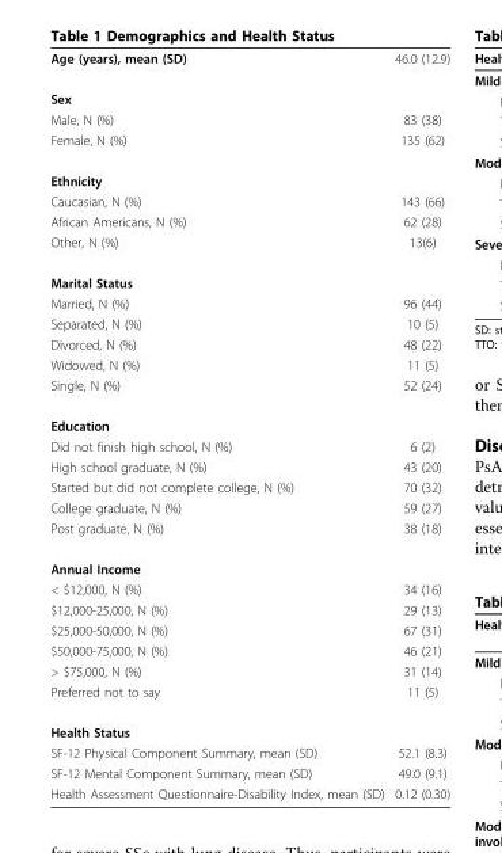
<table><tbody><tr><td>Age (years), mean (SD)</td><td>46.0 (12.9)</td></tr><tr><td colspan="2">Sex</td></tr><tr><td>Male, N (%)</td><td>83 (38)</td></tr><tr><td>Female, N (%)</td><td>135 (62)</td></tr><tr><td colspan="2">Ethnicity</td></tr><tr><td>Caucasian, N (%)</td><td>143 (66)</td></tr><tr><td>African Americans, N (%)</td><td>62 (28)</td></tr><tr><td>Other, N (%)</td><td>13(6)</td></tr><tr><td colspan="2">Marital Status</td></tr><tr><td>Married, N (%)</td><td>96 (44)</td></tr><tr><td>Separated, N (%)</td><td>10 (5)</td></tr><tr><td>Divorced, N (%)</td><td>48 (22)</td></tr><tr><td>Widowed, N (%)</td><td>11 (5)</td></tr><tr><td>Single, N (%)</td><td>52 (24)</td></tr><tr><td colspan="2">Education</td></tr><tr><td>Did not finish high school, N (%)</td><td>6 (2)</td></tr><tr><td>High school graduate, N (%)</td><td>43 (20)</td></tr><tr><td>Started but did not complete college, N (%)</td><td>70 (32)</td></tr><tr><td>College graduate, N (%)</td><td>59 (27)</td></tr><tr><td>Post graduate, N (%)</td><td>38 (18)</td></tr><tr><td colspan="2">Annual Income</td></tr><tr><td>&lt; $12,000, N (%)</td><td>34 (16)</td></tr><tr><td>$12,000-25,000, N (%)</td><td>29 (13)</td></tr><tr><td>$25,000-50,000, N (%)</td><td>67 (31)</td></tr><tr><td>$50,000-75,000, N (%)</td><td>46 (21)</td></tr><tr><td>&gt; $75,000, N (%)</td><td>31 (14)</td></tr><tr><td>Preferred not to say</td><td>11 (5)</td></tr><tr><td colspan="2">Health Status</td></tr><tr><td>SF-12 Physical Component Summary, mean (SD)</td><td>52.1 (8.3)</td></tr><tr><td>SF-12 Mental Component Summary, mean (SD)</td><td>49.0 (9.1)</td></tr><tr><td>Health Assessment Questionnaire-Disability Index, mean (SD)</td><td>0.12 (0.30)</td></tr></tbody></table>